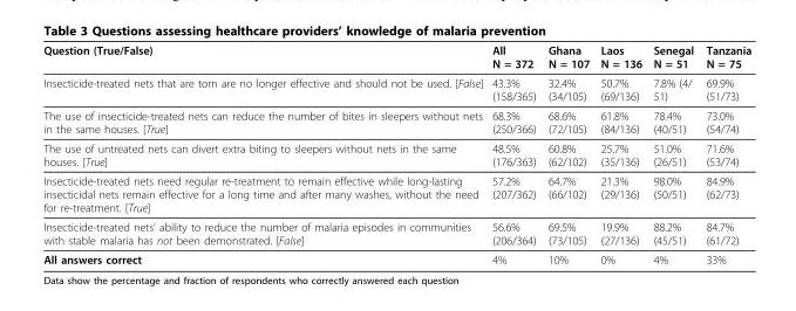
<table><thead><tr><td>Question (True/False)</td><td>All N = 372</td><td>Ghana N = 107</td><td>Laos N = 136</td><td>Senegal N = 51</td><td>Tanzania N = 75</td></tr></thead><tbody><tr><td>Insecticide-treated nets that are torn are no longer effective and should not be used. [False]</td><td>43.3% (158/365)</td><td>32.4% (34/105)</td><td>50.7% (69/136)</td><td>7.8% (4/ 51)</td><td>69.9% (51/73)</td></tr><tr><td>The use of insecticide-treated nets can reduce the number of bites in sleepers without nets in the same houses. [True]</td><td>68.3% (250/366)</td><td>68.6% (72/105)</td><td>61.8% (84/136)</td><td>78.4% (40/51)</td><td>73.0% (54/74)</td></tr><tr><td>The use of untreated nets can divert extra biting to sleepers without nets in the same houses. [True]</td><td>48.5% (176/363)</td><td>60.8% (62/102)</td><td>25.7% (35/136)</td><td>51.0% (26/51)</td><td>71.6% (53/74)</td></tr><tr><td>Insecticide-treated nets need regular re-treatment to remain effective while long-lasting insecticidal nets remain effective for a long time and after many washes, without the need for re-treatment. [True]</td><td>57.2% (207/362)</td><td>64.7% (66/102)</td><td>21.3% (29/136)</td><td>98.0% (50/51)</td><td>84.9% (62/73)</td></tr><tr><td>Insecticide-treated nets’ ability to reduce the number of malaria episodes in communities with stable malaria has not been demonstrated. [False]</td><td>56.6% (206/364)</td><td>69.5% (73/105)</td><td>19.9% (27/136)</td><td>88.2% (45/51)</td><td>84.7% (61/72)</td></tr><tr><td>All answers correct</td><td>4%</td><td>10%</td><td>0%</td><td>4%</td><td>33%</td></tr></tbody></table>